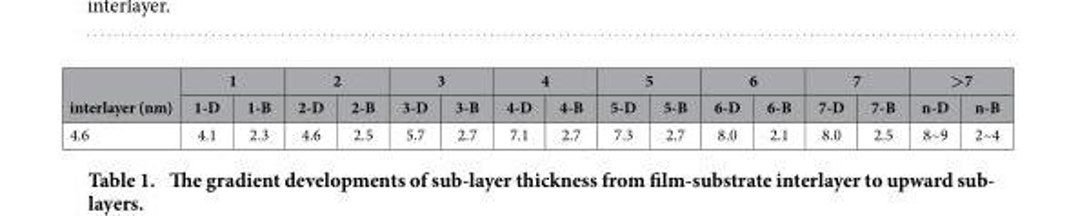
<table><thead><tr><td rowspan="2">interlayer (nm)</td><td colspan="2">1</td><td colspan="2">2</td><td colspan="2">3</td><td colspan="2">4</td><td colspan="2">5</td><td colspan="2">6</td><td colspan="2">7</td><td colspan="2">&gt;7</td></tr><tr><td>1-D</td><td>1-B</td><td>2-D</td><td>2-B</td><td>3-D</td><td>3-B</td><td>4-D</td><td>4-B</td><td>5-D</td><td>5-B</td><td>6-D</td><td>6-B</td><td>7-D</td><td>7-B</td><td>n-D</td><td>n-B</td></tr></thead><tbody><tr><td>4.6</td><td>4.1</td><td>2.3</td><td>4.6</td><td>2.5</td><td>5.7</td><td>2.7</td><td>7.1</td><td>2.7</td><td>7.3</td><td>2.7</td><td>8.0</td><td>2.1</td><td>8.0</td><td>2.5</td><td>8~9</td><td>2~4</td></tr></tbody></table>